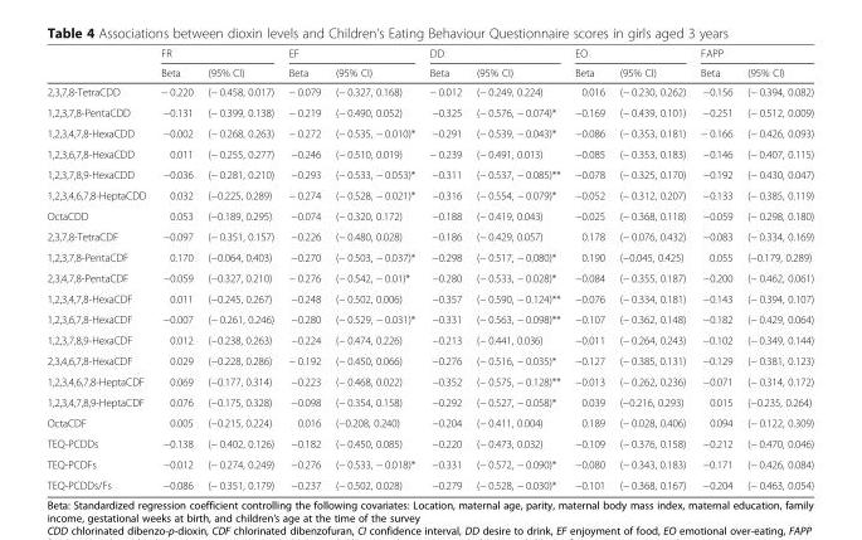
<table><thead><tr><td rowspan="2"></td><td colspan="2">FR</td><td colspan="2">EF</td><td colspan="2">DD</td><td colspan="2">EO</td><td colspan="2">FAPP</td></tr><tr><td>Beta</td><td>(95% CI)</td><td>Beta</td><td>(95% CI)</td><td>Beta</td><td>(95% CI)</td><td>Beta</td><td>(95% CI)</td><td>Beta</td><td>(95% CI)</td></tr></thead><tbody><tr><td>2,3,7,8-TetraCDD</td><td>− 0.220</td><td>(− 0.458, 0.017)</td><td>− 0.079</td><td>(− 0.327, 0.168)</td><td>− 0.012</td><td>(− 0.249, 0.224)</td><td>0.016</td><td>(− 0.230, 0.262)</td><td>−0.156</td><td>(− 0.394, 0.082)</td></tr><tr><td>1,2,3,7,8-PentaCDD</td><td>−0.131</td><td>(− 0.399, 0.138)</td><td>− 0.219</td><td>(− 0.490, 0.052)</td><td>−0.325</td><td>(− 0.576, − 0.074)*</td><td>−0.169</td><td>(− 0.439, 0.101)</td><td>−0.251</td><td>(− 0.512, 0.009)</td></tr><tr><td>1,2,3,4,7,8-HexaCDD</td><td>−0.002</td><td>(− 0.268, 0.263)</td><td>− 0.272</td><td>(− 0.535, − 0.010)*</td><td>−0.291</td><td>(− 0.539, − 0.043)*</td><td>−0.086</td><td>(− 0.353, 0.181)</td><td>− 0.166</td><td>(− 0.426, 0.093)</td></tr><tr><td>1,2,3,6,7,8-HexaCDD</td><td>0.011</td><td>(− 0.255, 0.277)</td><td>−0.246</td><td>(− 0.510, 0.019)</td><td>− 0.239</td><td>(− 0.491, 0.013)</td><td>−0.085</td><td>(− 0.353, 0.183)</td><td>−0.146</td><td>(− 0.407, 0.115)</td></tr><tr><td>1,2,3,7,8,9-HexaCDD</td><td>−0.036</td><td>(− 0.281, 0.210)</td><td>−0.293</td><td>(− 0.533, − 0.053)*</td><td>−0.311</td><td>(− 0.537, − 0.085)**</td><td>−0.078</td><td>(− 0.325, 0.170)</td><td>−0.192</td><td>(− 0.430, 0.047)</td></tr><tr><td>1,2,3,4,6,7,8-HeptaCDD</td><td>0.032</td><td>(−0.225, 0.289)</td><td>− 0.274</td><td>(− 0.528, − 0.021)*</td><td>−0.316</td><td>(− 0.554, − 0.079)*</td><td>−0.052</td><td>(− 0.312, 0.207)</td><td>−0.133</td><td>(− 0.385, 0.119)</td></tr><tr><td>OctaCDD</td><td>0.053</td><td>(−0.189, 0.295)</td><td>−0.074</td><td>(− 0.320, 0.172)</td><td>−0.188</td><td>(− 0.419, 0.043)</td><td>−0.025</td><td>(− 0.368, 0.118)</td><td>−0.059</td><td>(− 0.298, 0.180)</td></tr><tr><td>2,3,7,8-TetraCDF</td><td>−0.097</td><td>(− 0.351, 0.157)</td><td>−0.226</td><td>(− 0.480, 0.028)</td><td>−0.186</td><td>(− 0.429, 0.057)</td><td>0.178</td><td>(− 0.076, 0.432)</td><td>−0.083</td><td>(− 0.334, 0.169)</td></tr><tr><td>1,2,3,7,8-PentaCDF</td><td>0.170</td><td>(−0.064, 0.403)</td><td>−0.270</td><td>(− 0.503, − 0.037)*</td><td>−0.298</td><td>(− 0.517, − 0.080)*</td><td>0.190</td><td>(−0.045, 0.425)</td><td>0.055</td><td>(−0.179, 0.289)</td></tr><tr><td>2,3,4,7,8-PentaCDF</td><td>−0.059</td><td>(−0.327, 0.210)</td><td>− 0.276</td><td>(− 0.542, − 0.01)*</td><td>−0.280</td><td>(− 0.533, − 0.028)*</td><td>−0.084</td><td>(− 0.355, 0.187)</td><td>−0.200</td><td>(− 0.462, 0.061)</td></tr><tr><td>1,2,3,4,7,8-HexaCDF</td><td>0.011</td><td>(−0.245, 0.267)</td><td>−0.248</td><td>(− 0.502, 0.006)</td><td>−0.357</td><td>(− 0.590, − 0.124)**</td><td>−0.076</td><td>(− 0.334, 0.181)</td><td>−0.143</td><td>(− 0.394, 0.107)</td></tr><tr><td>1,2,3,6,7,8-HexaCDF</td><td>−0.007</td><td>(− 0.261, 0.246)</td><td>−0.280</td><td>(− 0.529, − 0.031)*</td><td>−0.331</td><td>(− 0.563, − 0.098)**</td><td>−0.107</td><td>(− 0.362, 0.148)</td><td>−0.182</td><td>(− 0.429, 0.064)</td></tr><tr><td>1,2,3,7,8,9-HexaCDF</td><td>0.012</td><td>(−0.238, 0.263)</td><td>−0.224</td><td>(− 0.474, 0.226)</td><td>−0.213</td><td>(− 0.441, 0.036)</td><td>−0.011</td><td>(− 0.264, 0.243)</td><td>−0.102</td><td>(− 0.349, 0.144)</td></tr><tr><td>2,3,4,6,7,8-HexaCDF</td><td>0.029</td><td>(−0.228, 0.286)</td><td>− 0.192</td><td>(− 0.450, 0.066)</td><td>−0.276</td><td>(− 0.516, − 0.035)*</td><td>−0.127</td><td>(− 0.385, 0.131)</td><td>−0.129</td><td>(− 0.381, 0.123)</td></tr><tr><td>1,2,3,4,6,7,8-HeptaCDF</td><td>0.069</td><td>(−0.177, 0.314)</td><td>−0.223</td><td>(− 0.468, 0.022)</td><td>−0.352</td><td>(− 0.575, − 0.128)**</td><td>−0.013</td><td>(− 0.262, 0.236)</td><td>−0.071</td><td>(− 0.314, 0.172)</td></tr><tr><td>1,2,3,4,7,8,9-HeptaCDF</td><td>0.076</td><td>(−0.175, 0.328)</td><td>−0.098</td><td>(− 0.354, 0.158)</td><td>−0.292</td><td>(− 0.527, − 0.058)*</td><td>0.039</td><td>(−0.216, 0.293)</td><td>0.015</td><td>(−0.235, 0.264)</td></tr><tr><td>OctaCDF</td><td>0.005</td><td>(−0.215, 0.224)</td><td>0.016</td><td>(−0.208, 0.240)</td><td>−0.204</td><td>(− 0.411, 0.004)</td><td>0.189</td><td>(− 0.028, 0.406)</td><td>0.094</td><td>(− 0.122, 0.309)</td></tr><tr><td>TEQ-PCDDs</td><td>−0.138</td><td>(− 0.402, 0.126)</td><td>−0.182</td><td>(− 0.450, 0.085)</td><td>−0.220</td><td>(− 0.473, 0.032)</td><td>−0.109</td><td>(− 0.376, 0.158)</td><td>−0.212</td><td>(− 0.470, 0.046)</td></tr><tr><td>TEQ-PCDFs</td><td>−0.012</td><td>(− 0.274, 0.249)</td><td>−0.276</td><td>(− 0.533, − 0.018)*</td><td>−0.331</td><td>(− 0.572, − 0.090)*</td><td>−0.080</td><td>(− 0.343, 0.183)</td><td>−0.171</td><td>(− 0.426, 0.084)</td></tr><tr><td>TEQ-PCDDs/Fs</td><td>−0.086</td><td>(− 0.351, 0.179)</td><td>−0.237</td><td>(− 0.502, 0.028)</td><td>−0.279</td><td>(− 0.528, − 0.030)*</td><td>−0.101</td><td>(− 0.368, 0.167)</td><td>−0.204</td><td>(− 0.463, 0.054)</td></tr></tbody></table>